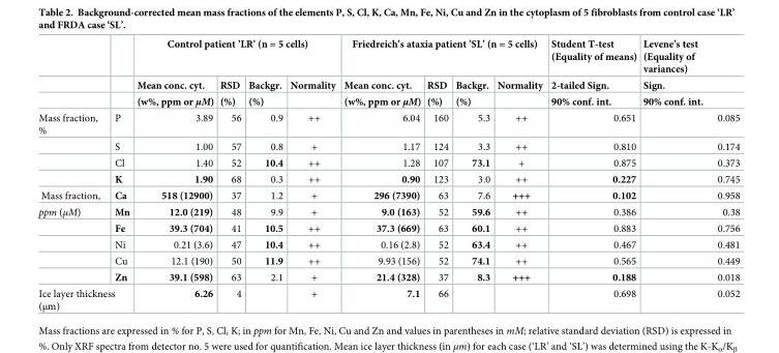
<table><thead><tr><td rowspan="3"></td><td rowspan="3"></td><td colspan="4">Control patient ’LR’ (n = 5 cells)</td><td colspan="4">Friedreich’s ataxia patient ’SL’ (n = 5 cells)</td><td rowspan="3">Student T-test (Equality of means) 2-tailed Sign. 90% conf. int.</td><td rowspan="3">Levene’s test (Equality of variances) Sign. 90% conf. int.</td></tr><tr><td rowspan="2">Mean conc. cyt. (w%, ppm or μM)</td><td rowspan="2">RSD (%)</td><td rowspan="2">Backgr. (%)</td><td rowspan="2">Normality</td><td rowspan="2">Mean conc. cyt. (w%, ppm or μM)</td><td rowspan="2">RSD (%)</td><td rowspan="2">Backgr. (%)</td><td rowspan="2">Normality</td></tr><tr></tr></thead><tbody><tr><td rowspan="4">Mass fraction, %</td><td>P</td><td>3.89</td><td>56</td><td>0.9</td><td>++</td><td>6.04</td><td>160</td><td>5.3</td><td>++</td><td>0.651</td><td>0.085</td></tr><tr><td>S</td><td>1.00</td><td>57</td><td>0.8</td><td>+</td><td>1.17</td><td>124</td><td>3.3</td><td>++</td><td>0.810</td><td>0.174</td></tr><tr><td>Cl</td><td>1.40</td><td>52</td><td>10.4</td><td>++</td><td>1.28</td><td>107</td><td>73.1</td><td>+</td><td>0.875</td><td>0.373</td></tr><tr><td>K</td><td>1.90</td><td>68</td><td>0.3</td><td>++</td><td>0.90</td><td>123</td><td>3.0</td><td>++</td><td>0.227</td><td>0.745</td></tr><tr><td>Mass fraction,</td><td>Ca</td><td>518 (12900)</td><td>37</td><td>1.2</td><td>+</td><td>296 (7390)</td><td>63</td><td>7.6</td><td>+++</td><td>0.102</td><td>0.958</td></tr><tr><td rowspan="5">ppm (μM)</td><td>Mn</td><td>12.0 (219)</td><td>48</td><td>9.9</td><td>+</td><td>9.0 (163)</td><td>52</td><td>59.6</td><td>++</td><td>0.386</td><td>0.38</td></tr><tr><td>Fe</td><td>39.3 (704)</td><td>41</td><td>10.5</td><td>++</td><td>37.3 (669)</td><td>63</td><td>60.1</td><td>++</td><td>0.883</td><td>0.756</td></tr><tr><td>Ni</td><td>0.21 (3.6)</td><td>47</td><td>10.4</td><td>++</td><td>0.16 (2.8)</td><td>52</td><td>63.4</td><td>++</td><td>0.467</td><td>0.481</td></tr><tr><td>Cu</td><td>12.1 (190)</td><td>50</td><td>11.9</td><td>++</td><td>9.93 (156)</td><td>52</td><td>74.1</td><td>++</td><td>0.565</td><td>0.449</td></tr><tr><td>Zn</td><td>39.1 (598)</td><td>63</td><td>2.1</td><td>+</td><td>21.4 (328)</td><td>37</td><td>8.3</td><td>+++</td><td>0.188</td><td>0.018</td></tr><tr><td colspan="2">Ice layer thickness (μm)</td><td>6.26</td><td>4</td><td></td><td>+</td><td>7.1</td><td>66</td><td></td><td></td><td>0.698</td><td>0.052</td></tr></tbody></table>